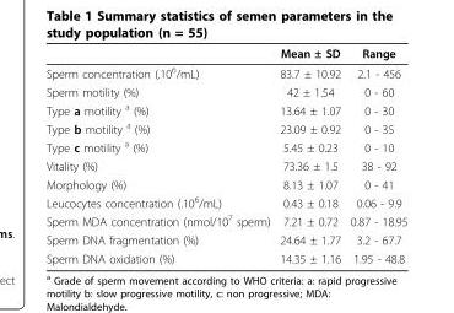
<table><thead><tr><td></td><td>Mean ± SD</td><td>Range</td></tr></thead><tbody><tr><td>Sperm concentration (.10<sup>6</sup>/mL)</td><td>83.7 ± 10.92</td><td>2.1 - 456</td></tr><tr><td>Sperm motility (%)</td><td>42 ± 1.54</td><td>0 - 60</td></tr><tr><td>Type a motility <sup>a</sup> (%)</td><td>13.64 ± 1.07</td><td>0 - 30</td></tr><tr><td>Type b motility <sup>a</sup> (%)</td><td>23.09 ± 0.92</td><td>0 - 35</td></tr><tr><td>Type c motility <sup>a</sup> (%)</td><td>5.45 ± 0.23</td><td>0 - 10</td></tr><tr><td>Vitality (%)</td><td>73.36 ± 1.5</td><td>38 - 92</td></tr><tr><td>Morphology (%)</td><td>8.13 ± 1.07</td><td>0 - 41</td></tr><tr><td>Leucocytes concentration (.10<sup>6</sup>/mL)</td><td>0.43 ± 0.18</td><td>0.06 - 9.9</td></tr><tr><td>Sperm MDA concentration (nmol/10<sup>7</sup> sperm)</td><td>7.21 ± 0.72</td><td>0.87 - 18.95</td></tr><tr><td>Sperm DNA fragmentation (%)</td><td>24.64 ± 1.77</td><td>3.2 - 67.7</td></tr><tr><td>Sperm DNA oxidation (%)</td><td>14.35 ± 1.16</td><td>1.95 - 48.8</td></tr></tbody></table>